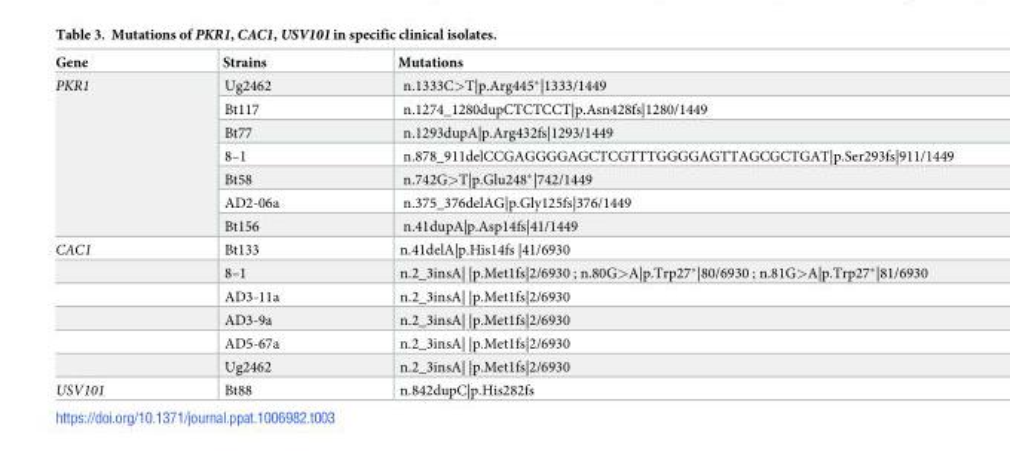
<table><thead><tr><td>Gene</td><td>Strains</td><td>Mutations</td></tr></thead><tbody><tr><td rowspan="7">PKR1</td><td>Ug2462</td><td>n.1333C&gt;T|p.Arg445*|1333/1449</td></tr><tr><td>Bt117</td><td>n.1274_1280dupCTCTCCT|p.Asn428fs|1280/1449</td></tr><tr><td>Bt77</td><td>n.1293dupA|p.Arg432fs|1293/1449</td></tr><tr><td>8–1</td><td>n.878_911delCCGAGGGGAGCTCGTTTGGGGAGTTAGCGCTGAT|p.Ser293fs|911/1449</td></tr><tr><td>Bt58</td><td>n.742G&gt;T|p.Glu248*|742/1449</td></tr><tr><td>AD2-06a</td><td>n.375_376delAG|p.Gly125fs|376/1449</td></tr><tr><td>Bt156</td><td>n.41dupA|p.Asp14fs|41/1449</td></tr><tr><td rowspan="6">CAC1</td><td>Bt133</td><td>n.41delA|p.His14fs |41/6930</td></tr><tr><td>8–1</td><td>n.2_3insA| |p.Met1fs|2/6930 ; n.80G&gt;A|p.Trp27*|80/6930 ; n.81G&gt;A|p.Trp27*|81/6930</td></tr><tr><td>AD3-11a</td><td>n.2_3insA| |p.Met1fs|2/6930</td></tr><tr><td>AD3-9a</td><td>n.2_3insA| |p.Met1fs|2/6930</td></tr><tr><td>AD5-67a</td><td>n.2_3insA| |p.Met1fs|2/6930</td></tr><tr><td>Ug2462</td><td>n.2_3insA| |p.Met1fs|2/6930</td></tr><tr><td>USV101</td><td>Bt88</td><td>n.842dupC|p.His282fs</td></tr></tbody></table>